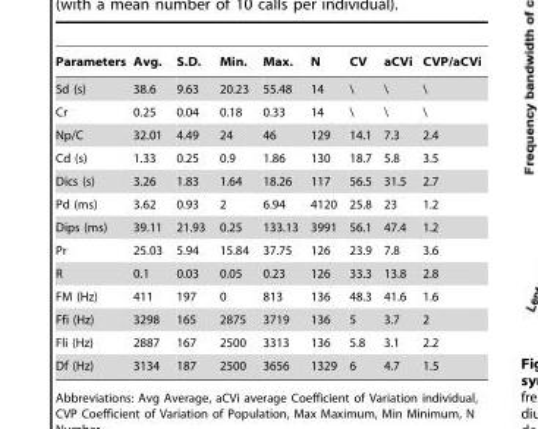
<table><thead><tr><td>Parameters</td><td>Avg.</td><td>S.D.</td><td>Min.</td><td>Max.</td><td>N</td><td>CV</td><td>aCVi</td><td>CVP/aCVi</td></tr></thead><tbody><tr><td>Sd (s)</td><td>38.6</td><td>9.63</td><td>20.23</td><td>55.48</td><td>14</td><td>\</td><td>\</td><td>\</td></tr><tr><td>Cr</td><td>0.25</td><td>0.04</td><td>0.18</td><td>0.33</td><td>14</td><td>\</td><td>\</td><td>\</td></tr><tr><td>Np/C</td><td>32.01</td><td>4.49</td><td>24</td><td>46</td><td>129</td><td>14.1</td><td>7.3</td><td>2.4</td></tr><tr><td>Cd (s)</td><td>1.33</td><td>0.25</td><td>0.9</td><td>1.86</td><td>130</td><td>18.7</td><td>5.8</td><td>3.5</td></tr><tr><td>Dics (s)</td><td>3.26</td><td>1.83</td><td>1.64</td><td>18.26</td><td>117</td><td>56.5</td><td>31.5</td><td>2.7</td></tr><tr><td>Pd (ms)</td><td>3.62</td><td>0.93</td><td>2</td><td>6.94</td><td>4120</td><td>25.8</td><td>23</td><td>1.2</td></tr><tr><td>Dips (ms)</td><td>39.11</td><td>21.93</td><td>0.25</td><td>133.13</td><td>3991</td><td>56.1</td><td>47.4</td><td>1.2</td></tr><tr><td>Pr</td><td>25.03</td><td>5.94</td><td>15.84</td><td>37.75</td><td>126</td><td>23.9</td><td>7.8</td><td>3.6</td></tr><tr><td>R</td><td>0.1</td><td>0.03</td><td>0.05</td><td>0.23</td><td>126</td><td>33.3</td><td>13.8</td><td>2.8</td></tr><tr><td>FM (Hz)</td><td>411</td><td>197</td><td>0</td><td>813</td><td>136</td><td>48.3</td><td>41.6</td><td>1.6</td></tr><tr><td>Ffi (Hz)</td><td>3298</td><td>165</td><td>2875</td><td>3719</td><td>136</td><td>5</td><td>3.7</td><td>2</td></tr><tr><td>Fli (Hz)</td><td>2887</td><td>167</td><td>2500</td><td>3313</td><td>136</td><td>5.8</td><td>3.1</td><td>2.2</td></tr><tr><td>Df (Hz)</td><td>3134</td><td>187</td><td>2500</td><td>3656</td><td>1329</td><td>6</td><td>4.7</td><td>1.5</td></tr></tbody></table>